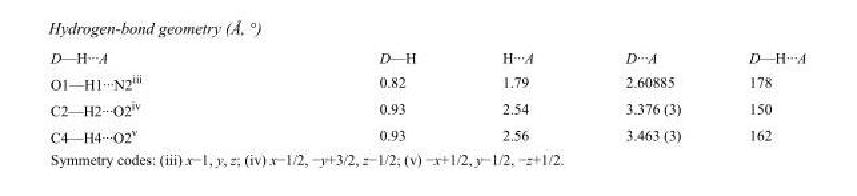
<table><tbody><tr><td>D—H···A</td><td>D—H</td><td>H···A</td><td>D···A</td><td>D—H···A</td></tr><tr><td>O1—H1···N2<sup>iii</sup></td><td>0.82</td><td>1.79</td><td>2.60885</td><td>178</td></tr><tr><td>C2—H2···O2<sup>iv</sup></td><td>0.93</td><td>2.54</td><td>3.376 (3)</td><td>150</td></tr><tr><td>C4—H4···O2<sup>v</sup></td><td>0.93</td><td>2.56</td><td>3.463 (3)</td><td>162</td></tr></tbody></table>